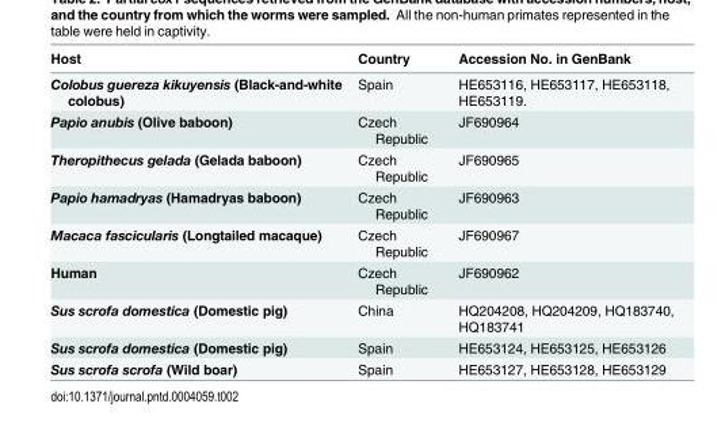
<table><thead><tr><td>Host</td><td>Country</td><td>Accession No. in GenBank</td></tr></thead><tbody><tr><td>Colobus guereza kikuyensis (Black-and-white colobus)</td><td>Spain</td><td>HE653116, HE653117, HE653118, HE653119.</td></tr><tr><td>Papio anubis (Olive baboon)</td><td>Czech Republic</td><td>JF690964</td></tr><tr><td>Theropithecus gelada (Gelada baboon)</td><td>Czech Republic</td><td>JF690965</td></tr><tr><td>Papio hamadryas (Hamadryas baboon)</td><td>Czech Republic</td><td>JF690963</td></tr><tr><td>Macaca fascicularis (Longtailed macaque)</td><td>Czech Republic</td><td>JF690967</td></tr><tr><td>Human</td><td>Czech Republic</td><td>JF690962</td></tr><tr><td>Sus scrofa domestica (Domestic pig)</td><td>China</td><td>HQ204208, HQ204209, HQ183740, HQ183741</td></tr><tr><td>Sus scrofa domestica (Domestic pig)</td><td>Spain</td><td>HE653124, HE653125, HE653126</td></tr><tr><td>Sus scrofa scrofa (Wild boar)</td><td>Spain</td><td>HE653127, HE653128, HE653129</td></tr></tbody></table>